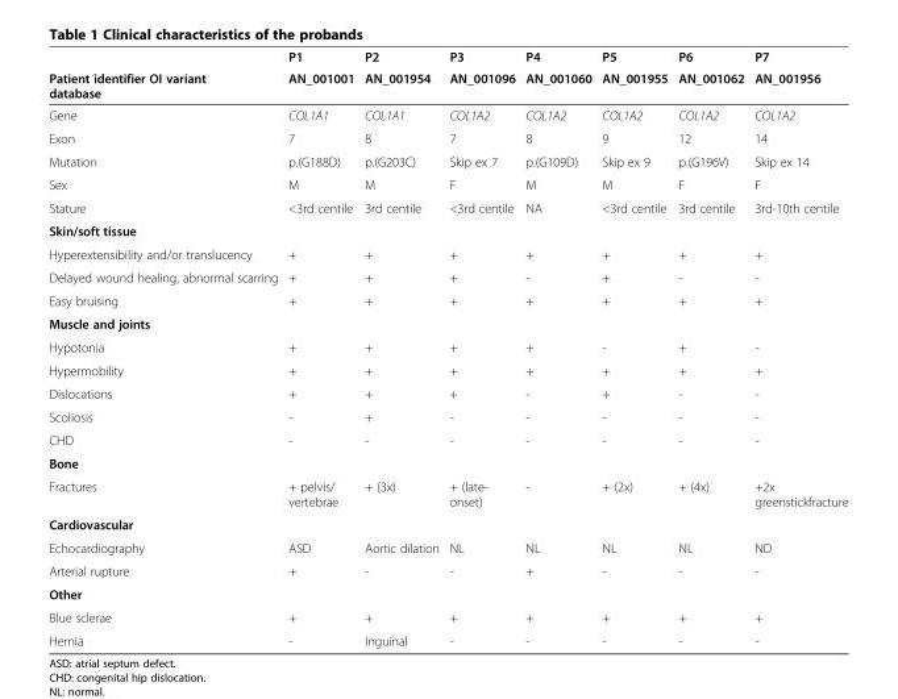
<table><thead><tr><td rowspan="2">Patient identifier OI variant database</td><td rowspan="2">P1 AN_001001</td><td rowspan="2">P2 AN_001954</td><td rowspan="2">P3 AN_001096</td><td rowspan="2">P4 AN_001060</td><td rowspan="2">P5 AN_001955</td><td rowspan="2">P6 AN_001062</td><td rowspan="2">P7 AN_001956</td></tr><tr></tr></thead><tbody><tr><td>Gene</td><td>COL1A1</td><td>COL1A1</td><td>COL1A2</td><td>COL1A2</td><td>COL1A2</td><td>COL1A2</td><td>COL1A2</td></tr><tr><td>Exon</td><td>7</td><td>8</td><td>7</td><td>8</td><td>9</td><td>12</td><td>14</td></tr><tr><td>Mutation</td><td>p.(G188D)</td><td>p.(G203C)</td><td>Skip ex 7</td><td>p.(G109D)</td><td>Skip ex 9</td><td>p.(G196V)</td><td>Skip ex 14</td></tr><tr><td>Sex</td><td>M</td><td>M</td><td>F</td><td>M</td><td>M</td><td>F</td><td>F</td></tr><tr><td>Stature</td><td>&lt;3rd centile</td><td>3rd centile</td><td>&lt;3rd centile</td><td>NA</td><td>&lt;3rd centile</td><td>3rd centile</td><td>3rd-10th centile</td></tr><tr><td colspan="8">Skin/soft tissue</td></tr><tr><td>Hyperextensibility and/or translucency</td><td>+</td><td>+</td><td>+</td><td>+</td><td>+</td><td>+</td><td>+</td></tr><tr><td>Delayed wound healing, abnormal scarring</td><td>+</td><td>+</td><td>+</td><td>-</td><td>+</td><td>-</td><td>-</td></tr><tr><td>Easy bruising</td><td>+</td><td>+</td><td>+</td><td>+</td><td>+</td><td>+</td><td>+</td></tr><tr><td colspan="8">Muscle and joints</td></tr><tr><td>Hypotonia</td><td>+</td><td>+</td><td>+</td><td>+</td><td>-</td><td>+</td><td>-</td></tr><tr><td>Hypermobility</td><td>+</td><td>+</td><td>+</td><td>+</td><td>+</td><td>+</td><td>+</td></tr><tr><td>Dislocations</td><td>+</td><td>+</td><td>+</td><td>-</td><td>+</td><td>-</td><td>-</td></tr><tr><td>Scoliosis</td><td>-</td><td>+</td><td>-</td><td>-</td><td>-</td><td>-</td><td>-</td></tr><tr><td>CHD</td><td>-</td><td>-</td><td>-</td><td>-</td><td>-</td><td>-</td><td>-</td></tr><tr><td colspan="8">Bone</td></tr><tr><td>Fractures</td><td>+ pelvis/ vertebrae</td><td>+ (3x)</td><td>+ (late- onset)</td><td>-</td><td>+ (2x)</td><td>+ (4x)</td><td>+2x greenstickfracture</td></tr><tr><td colspan="8">Cardiovascular</td></tr><tr><td>Echocardiography</td><td>ASD</td><td>Aortic dilation</td><td>NL</td><td>NL</td><td>NL</td><td>NL</td><td>ND</td></tr><tr><td>Arterial rupture</td><td>+</td><td>-</td><td>-</td><td>+</td><td>-</td><td>-</td><td>-</td></tr><tr><td colspan="8">Other</td></tr><tr><td>Blue sclerae</td><td>+</td><td>+</td><td>+</td><td>+</td><td>+</td><td>+</td><td>+</td></tr><tr><td>Hernia</td><td>-</td><td>Inguinal</td><td>-</td><td>-</td><td>-</td><td>-</td><td>-</td></tr></tbody></table>